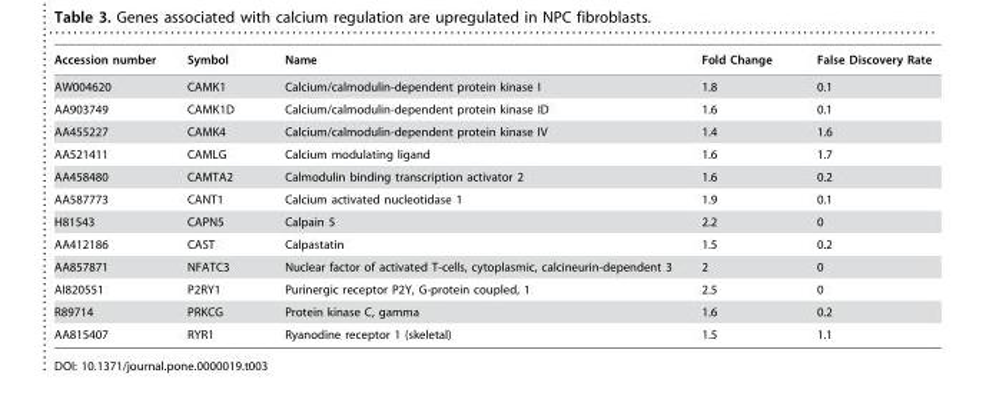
<table><thead><tr><td>Accession number</td><td>Symbol</td><td>Name</td><td>Fold Change</td><td>False Discovery Rate</td></tr></thead><tbody><tr><td>AW004620</td><td>CAMK1</td><td>Calcium/calmodulin-dependent protein kinase I</td><td>1.8</td><td>0.1</td></tr><tr><td>AA903749</td><td>CAMK1D</td><td>Calcium/calmodulin-dependent protein kinase ID</td><td>1.6</td><td>0.1</td></tr><tr><td>AA455227</td><td>CAMK4</td><td>Calcium/calmodulin-dependent protein kinase IV</td><td>1.4</td><td>1.6</td></tr><tr><td>AA521411</td><td>CAMLG</td><td>Calcium modulating ligand</td><td>1.6</td><td>1.7</td></tr><tr><td>AA458480</td><td>CAMTA2</td><td>Calmodulin binding transcription activator 2</td><td>1.6</td><td>0.2</td></tr><tr><td>AA587773</td><td>CANT1</td><td>Calcium activated nucleotidase 1</td><td>1.9</td><td>0.1</td></tr><tr><td>H81543</td><td>CAPN5</td><td>Calpain 5</td><td>2.2</td><td>0</td></tr><tr><td>AA412186</td><td>CAST</td><td>Calpastatin</td><td>1.5</td><td>0.2</td></tr><tr><td>AA857871</td><td>NFATC3</td><td>Nuclear factor of activated T-cells, cytoplasmic, calcineurin-dependent 3</td><td>2</td><td>0</td></tr><tr><td>AI820551</td><td>P2RY1</td><td>Purinergic receptor P2Y, G-protein coupled, 1</td><td>2.5</td><td>0</td></tr><tr><td>R89714</td><td>PRKCG</td><td>Protein kinase C, gamma</td><td>1.6</td><td>0.2</td></tr><tr><td>AA815407</td><td>RYR1</td><td>Ryanodine receptor 1 (skeletal)</td><td>1.5</td><td>1.1</td></tr></tbody></table>